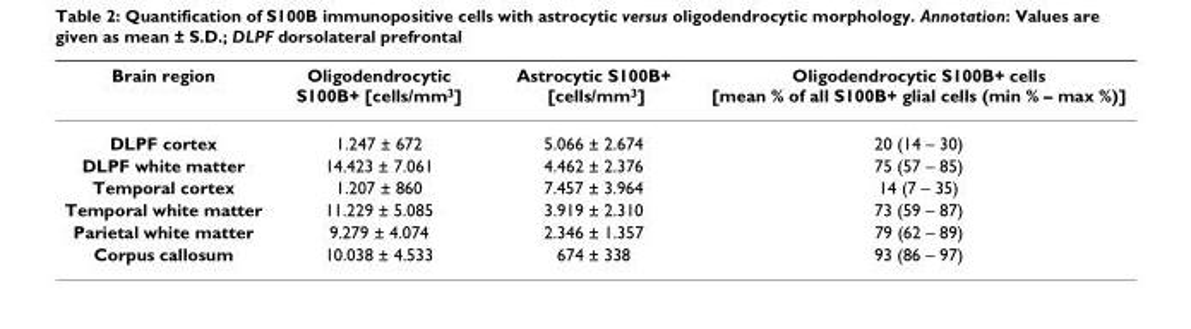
<table><thead><tr><td>Brain region</td><td>Oligodendrocytic S100B+ [cells/mm3]</td><td>Astrocytic S100B+ [cells/mm3]</td><td>Oligodendrocytic S100B+ cells [mean % of all S100B+ glial cells (min % – max %)]</td></tr></thead><tbody><tr><td>DLPF cortex</td><td>1.247 ± 672</td><td>5.066 ± 2.674</td><td>20 (14 – 30)</td></tr><tr><td>DLPF white matter</td><td>14.423 ± 7.061</td><td>4.462 ± 2.376</td><td>75 (57 – 85)</td></tr><tr><td>Temporal cortex</td><td>1.207 ± 860</td><td>7.457 ± 3.964</td><td>14 (7 – 35)</td></tr><tr><td>Temporal white matter</td><td>11.229 ± 5.085</td><td>3.919 ± 2.310</td><td>73 (59 – 87)</td></tr><tr><td>Parietal white matter</td><td>9.279 ± 4.074</td><td>2.346 ± 1.357</td><td>79 (62 – 89)</td></tr><tr><td>Corpus callosum</td><td>10.038 ± 4.533</td><td>674 ± 338</td><td>93 (86 – 97)</td></tr></tbody></table>